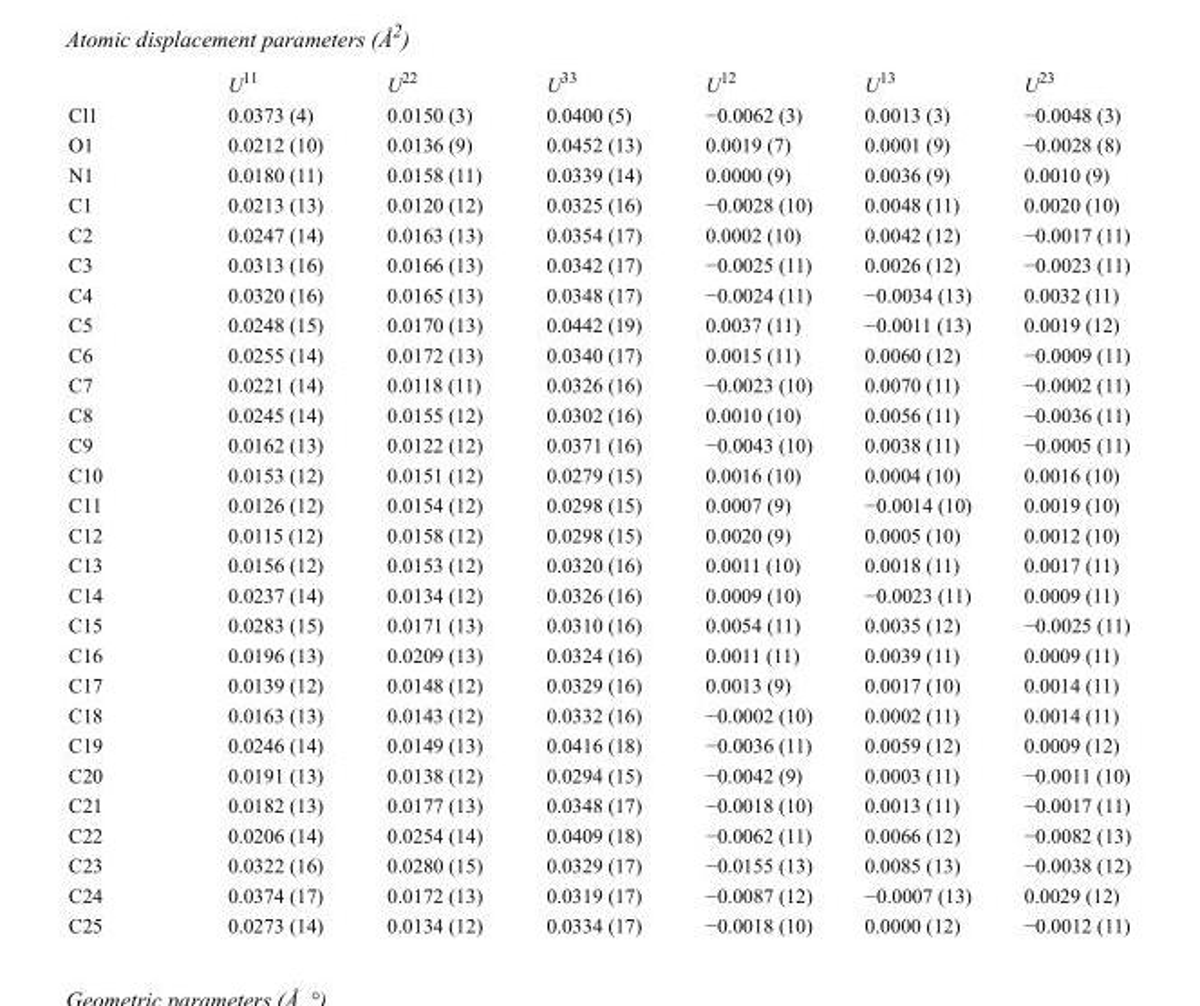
<table><thead><tr><td></td><td>U<sup>11</sup></td><td>U<sup>22</sup></td><td>U<sup>33</sup></td><td>U<sup>12</sup></td><td>U<sup>13</sup></td><td>U<sup>23</sup></td></tr></thead><tbody><tr><td>Cl1</td><td>0.0373 (4)</td><td>0.0150 (3)</td><td>0.0400 (5)</td><td>−0.0062 (3)</td><td>0.0013 (3)</td><td>−0.0048 (3)</td></tr><tr><td>O1</td><td>0.0212 (10)</td><td>0.0136 (9)</td><td>0.0452 (13)</td><td>0.0019 (7)</td><td>0.0001 (9)</td><td>−0.0028 (8)</td></tr><tr><td>N1</td><td>0.0180 (11)</td><td>0.0158 (11)</td><td>0.0339 (14)</td><td>0.0000 (9)</td><td>0.0036 (9)</td><td>0.0010 (9)</td></tr><tr><td>C1</td><td>0.0213 (13)</td><td>0.0120 (12)</td><td>0.0325 (16)</td><td>−0.0028 (10)</td><td>0.0048 (11)</td><td>0.0020 (10)</td></tr><tr><td>C2</td><td>0.0247 (14)</td><td>0.0163 (13)</td><td>0.0354 (17)</td><td>0.0002 (10)</td><td>0.0042 (12)</td><td>−0.0017 (11)</td></tr><tr><td>C3</td><td>0.0313 (16)</td><td>0.0166 (13)</td><td>0.0342 (17)</td><td>−0.0025 (11)</td><td>0.0026 (12)</td><td>−0.0023 (11)</td></tr><tr><td>C4</td><td>0.0320 (16)</td><td>0.0165 (13)</td><td>0.0348 (17)</td><td>−0.0024 (11)</td><td>−0.0034 (13)</td><td>0.0032 (11)</td></tr><tr><td>C5</td><td>0.0248 (15)</td><td>0.0170 (13)</td><td>0.0442 (19)</td><td>0.0037 (11)</td><td>−0.0011 (13)</td><td>0.0019 (12)</td></tr><tr><td>C6</td><td>0.0255 (14)</td><td>0.0172 (13)</td><td>0.0340 (17)</td><td>0.0015 (11)</td><td>0.0060 (12)</td><td>−0.0009 (11)</td></tr><tr><td>C7</td><td>0.0221 (14)</td><td>0.0118 (11)</td><td>0.0326 (16)</td><td>−0.0023 (10)</td><td>0.0070 (11)</td><td>−0.0002 (11)</td></tr><tr><td>C8</td><td>0.0245 (14)</td><td>0.0155 (12)</td><td>0.0302 (16)</td><td>0.0010 (10)</td><td>0.0056 (11)</td><td>−0.0036 (11)</td></tr><tr><td>C9</td><td>0.0162 (13)</td><td>0.0122 (12)</td><td>0.0371 (16)</td><td>−0.0043 (10)</td><td>0.0038 (11)</td><td>−0.0005 (11)</td></tr><tr><td>C10</td><td>0.0153 (12)</td><td>0.0151 (12)</td><td>0.0279 (15)</td><td>0.0016 (10)</td><td>0.0004 (10)</td><td>0.0016 (10)</td></tr><tr><td>C11</td><td>0.0126 (12)</td><td>0.0154 (12)</td><td>0.0298 (15)</td><td>0.0007 (9)</td><td>−0.0014 (10)</td><td>0.0019 (10)</td></tr><tr><td>C12</td><td>0.0115 (12)</td><td>0.0158 (12)</td><td>0.0298 (15)</td><td>0.0020 (9)</td><td>0.0005 (10)</td><td>0.0012 (10)</td></tr><tr><td>C13</td><td>0.0156 (12)</td><td>0.0153 (12)</td><td>0.0320 (16)</td><td>0.0011 (10)</td><td>0.0018 (11)</td><td>0.0017 (11)</td></tr><tr><td>C14</td><td>0.0237 (14)</td><td>0.0134 (12)</td><td>0.0326 (16)</td><td>0.0009 (10)</td><td>−0.0023 (11)</td><td>0.0009 (11)</td></tr><tr><td>C15</td><td>0.0283 (15)</td><td>0.0171 (13)</td><td>0.0310 (16)</td><td>0.0054 (11)</td><td>0.0035 (12)</td><td>−0.0025 (11)</td></tr><tr><td>C16</td><td>0.0196 (13)</td><td>0.0209 (13)</td><td>0.0324 (16)</td><td>0.0011 (11)</td><td>0.0039 (11)</td><td>0.0009 (11)</td></tr><tr><td>C17</td><td>0.0139 (12)</td><td>0.0148 (12)</td><td>0.0329 (16)</td><td>0.0013 (9)</td><td>0.0017 (10)</td><td>0.0014 (11)</td></tr><tr><td>C18</td><td>0.0163 (13)</td><td>0.0143 (12)</td><td>0.0332 (16)</td><td>−0.0002 (10)</td><td>0.0002 (11)</td><td>0.0014 (11)</td></tr><tr><td>C19</td><td>0.0246 (14)</td><td>0.0149 (13)</td><td>0.0416 (18)</td><td>−0.0036 (11)</td><td>0.0059 (12)</td><td>0.0009 (12)</td></tr><tr><td>C20</td><td>0.0191 (13)</td><td>0.0138 (12)</td><td>0.0294 (15)</td><td>−0.0042 (9)</td><td>0.0003 (11)</td><td>−0.0011 (10)</td></tr><tr><td>C21</td><td>0.0182 (13)</td><td>0.0177 (13)</td><td>0.0348 (17)</td><td>−0.0018 (10)</td><td>0.0013 (11)</td><td>−0.0017 (11)</td></tr><tr><td>C22</td><td>0.0206 (14)</td><td>0.0254 (14)</td><td>0.0409 (18)</td><td>−0.0062 (11)</td><td>0.0066 (12)</td><td>−0.0082 (13)</td></tr><tr><td>C23</td><td>0.0322 (16)</td><td>0.0280 (15)</td><td>0.0329 (17)</td><td>−0.0155 (13)</td><td>0.0085 (13)</td><td>−0.0038 (12)</td></tr><tr><td>C24</td><td>0.0374 (17)</td><td>0.0172 (13)</td><td>0.0319 (17)</td><td>−0.0087 (12)</td><td>−0.0007 (13)</td><td>0.0029 (12)</td></tr><tr><td>C25</td><td>0.0273 (14)</td><td>0.0134 (12)</td><td>0.0334 (17)</td><td>−0.0018 (10)</td><td>0.0000 (12)</td><td>−0.0012 (11)</td></tr></tbody></table>